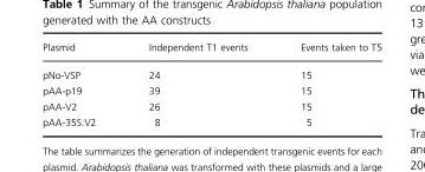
<table><thead><tr><td>Plasmid</td><td>Independent T1 events</td><td>Events taken to T5</td></tr></thead><tbody><tr><td>pNo-VSP</td><td>24</td><td>15</td></tr><tr><td>pAA-p19</td><td>39</td><td>15</td></tr><tr><td>pAA-V2</td><td>26</td><td>15</td></tr><tr><td>pAA-35S:V2</td><td>8</td><td>5</td></tr></tbody></table>